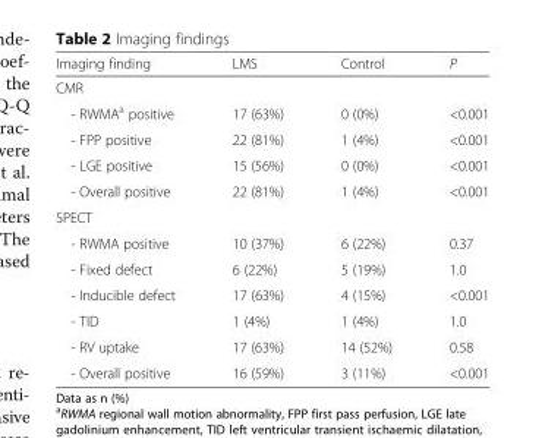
<table><thead><tr><td>Imaging finding</td><td>LMS</td><td>Control</td><td>P</td></tr></thead><tbody><tr><td colspan="4">CMR</td></tr><tr><td>- RWMA<sup>a</sup> positive</td><td>17 (63%)</td><td>0 (0%)</td><td>&lt;0.001</td></tr><tr><td>- FPP positive</td><td>22 (81%)</td><td>1 (4%)</td><td>&lt;0.001</td></tr><tr><td>- LGE positive</td><td>15 (56%)</td><td>0 (0%)</td><td>&lt;0.001</td></tr><tr><td>- Overall positive</td><td>22 (81%)</td><td>1 (4%)</td><td>&lt;0.001</td></tr><tr><td colspan="4">SPECT</td></tr><tr><td>- RWMA positive</td><td>10 (37%)</td><td>6 (22%)</td><td>0.37</td></tr><tr><td>- Fixed defect</td><td>6 (22%)</td><td>5 (19%)</td><td>1.0</td></tr><tr><td>- Inducible defect</td><td>17 (63%)</td><td>4 (15%)</td><td>&lt;0.001</td></tr><tr><td>- TID</td><td>1 (4%)</td><td>1 (4%)</td><td>1.0</td></tr><tr><td>- RV uptake</td><td>17 (63%)</td><td>14 (52%)</td><td>0.58</td></tr><tr><td>- Overall positive</td><td>16 (59%)</td><td>3 (11%)</td><td>&lt;0.001</td></tr></tbody></table>